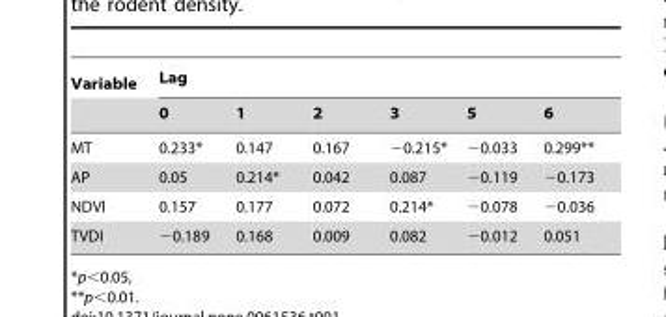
<table><thead><tr><td rowspan="2">Variable</td><td colspan="6">Lag</td></tr><tr><td>0</td><td>1</td><td>2</td><td>3</td><td>5</td><td>6</td></tr></thead><tbody><tr><td>MT</td><td>0.233*</td><td>0.147</td><td>0.167</td><td>−0.215*</td><td>−0.033</td><td>0.299**</td></tr><tr><td>AP</td><td>0.05</td><td>0.214*</td><td>0.042</td><td>0.087</td><td>−0.119</td><td>−0.173</td></tr><tr><td>NDVI</td><td>0.157</td><td>0.177</td><td>0.072</td><td>0.214*</td><td>−0.078</td><td>−0.036</td></tr><tr><td>TVDI</td><td>−0.189</td><td>0.168</td><td>0.009</td><td>0.082</td><td>−0.012</td><td>0.051</td></tr></tbody></table>